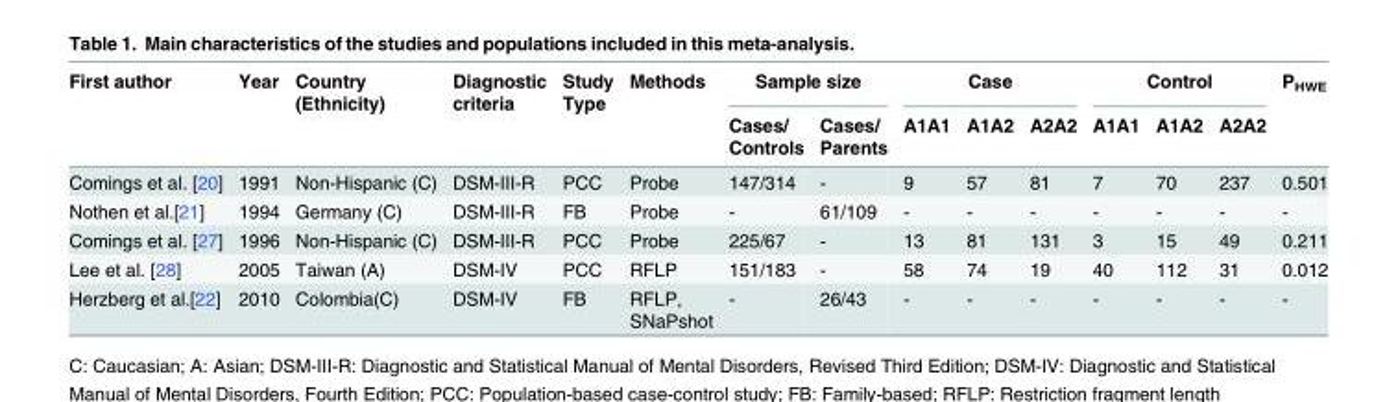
<table><thead><tr><td rowspan="2">First author</td><td rowspan="2">Year</td><td rowspan="2">Country (Ethnicity)</td><td rowspan="2">Diagnostic criteria</td><td rowspan="2">Study Type</td><td rowspan="2">Methods</td><td colspan="2">Sample size</td><td colspan="3">Case</td><td colspan="3">Control</td><td rowspan="2">P<sub>HWE</sub></td></tr><tr><td>Cases/ Controls</td><td>Cases/ Parents</td><td>A1A1</td><td>A1A2</td><td>A2A2</td><td>A1A1</td><td>A1A2</td><td>A2A2</td></tr></thead><tbody><tr><td>Comings et al. [20]</td><td>1991</td><td>Non-Hispanic (C)</td><td>DSM-III-R</td><td>PCC</td><td>Probe</td><td>147/314</td><td>-</td><td>9</td><td>57</td><td>81</td><td>7</td><td>70</td><td>237</td><td>0.501</td></tr><tr><td>Nothen et al.[21]</td><td>1994</td><td>Germany (C)</td><td>DSM-III-R</td><td>FB</td><td>Probe</td><td>-</td><td>61/109</td><td>-</td><td>-</td><td>-</td><td>-</td><td>-</td><td>-</td><td>-</td></tr><tr><td>Comings et al. [27]</td><td>1996</td><td>Non-Hispanic (C)</td><td>DSM-III-R</td><td>PCC</td><td>Probe</td><td>225/67</td><td>-</td><td>13</td><td>81</td><td>131</td><td>3</td><td>15</td><td>49</td><td>0.211</td></tr><tr><td>Lee et al. [28]</td><td>2005</td><td>Taiwan (A)</td><td>DSM-IV</td><td>PCC</td><td>RFLP</td><td>151/183</td><td>-</td><td>58</td><td>74</td><td>19</td><td>40</td><td>112</td><td>31</td><td>0.012</td></tr><tr><td>Herzberg et al.[22]</td><td>2010</td><td>Colombia(C)</td><td>DSM-IV</td><td>FB</td><td>RFLP, SNaPshot</td><td>-</td><td>26/43</td><td>-</td><td>-</td><td>-</td><td>-</td><td>-</td><td>-</td><td>-</td></tr></tbody></table>